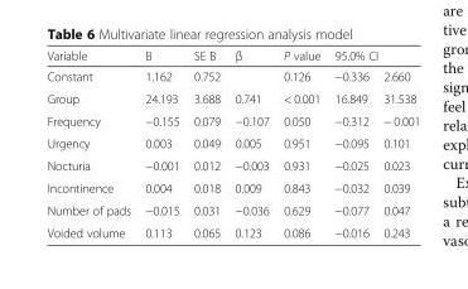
<table><thead><tr><td rowspan="2">Variable Constant</td><td rowspan="2">B 1.162</td><td rowspan="2">SE B 0.752</td><td rowspan="2">β</td><td rowspan="2">P value 0.126</td><td colspan="2">95.0% CI</td></tr><tr><td>−0.336</td><td>2.660</td></tr></thead><tbody><tr><td>Group</td><td>24.193</td><td>3.688</td><td>0.741</td><td>&lt; 0.001</td><td>16.849</td><td>31.538</td></tr><tr><td>Frequency</td><td>−0.155</td><td>0.079</td><td>−0.107</td><td>0.050</td><td>−0.312</td><td>− 0.001</td></tr><tr><td>Urgency</td><td>0.003</td><td>0.049</td><td>0.005</td><td>0.951</td><td>−0.095</td><td>0.101</td></tr><tr><td>Nocturia</td><td>−0.001</td><td>0.012</td><td>−0.003</td><td>0.931</td><td>−0.025</td><td>0.023</td></tr><tr><td>Incontinence</td><td>0.004</td><td>0.018</td><td>0.009</td><td>0.843</td><td>−0.032</td><td>0.039</td></tr><tr><td>Number of pads</td><td>−0.015</td><td>0.031</td><td>−0.036</td><td>0.629</td><td>−0.077</td><td>0.047</td></tr><tr><td>Voided volume</td><td>0.113</td><td>0.065</td><td>0.123</td><td>0.086</td><td>−0.016</td><td>0.243</td></tr></tbody></table>